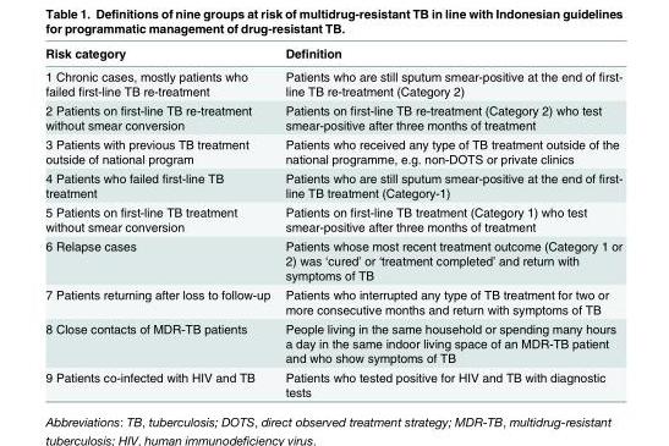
<table><thead><tr><td>Risk category</td><td>Definition</td></tr></thead><tbody><tr><td>1 Chronic cases, mostly patients who failed first-line TB re-treatment</td><td>Patients who are still sputum smear-positive at the end of first- line TB re-treatment (Category 2)</td></tr><tr><td>2 Patients on first-line TB re-treatment without smear conversion</td><td>Patients on first-line TB re-treatment (Category 2) who test smear-positive after three months of treatment</td></tr><tr><td>3 Patients with previous TB treatment outside of national program</td><td>Patients who received any type of TB treatment outside of the national programme, e.g. non-DOTS or private clinics</td></tr><tr><td>4 Patients who failed first-line TB treatment</td><td>Patients who are still sputum smear-positive at the end of first- line TB treatment (Category-1)</td></tr><tr><td>5 Patients on first-line TB treatment without smear conversion</td><td>Patients on first-line TB treatment (Category 1) who test smear-positive after three months of treatment</td></tr><tr><td>6 Relapse cases</td><td>Patients whose most recent treatment outcome (Category 1 or 2) was ‘cured’ or ‘treatment completed’ and return with symptoms of TB</td></tr><tr><td>7 Patients returning after loss to follow-up</td><td>Patients who interrupted any type of TB treatment for two or more consecutive months and return with symptoms of TB</td></tr><tr><td>8 Close contacts of MDR-TB patients</td><td>People living in the same household or spending many hours a day in the same indoor living space of an MDR-TB patient and who show symptoms of TB</td></tr><tr><td>9 Patients co-infected with HIV and TB</td><td>Patients who tested positive for HIV and TB with diagnostic tests</td></tr></tbody></table>